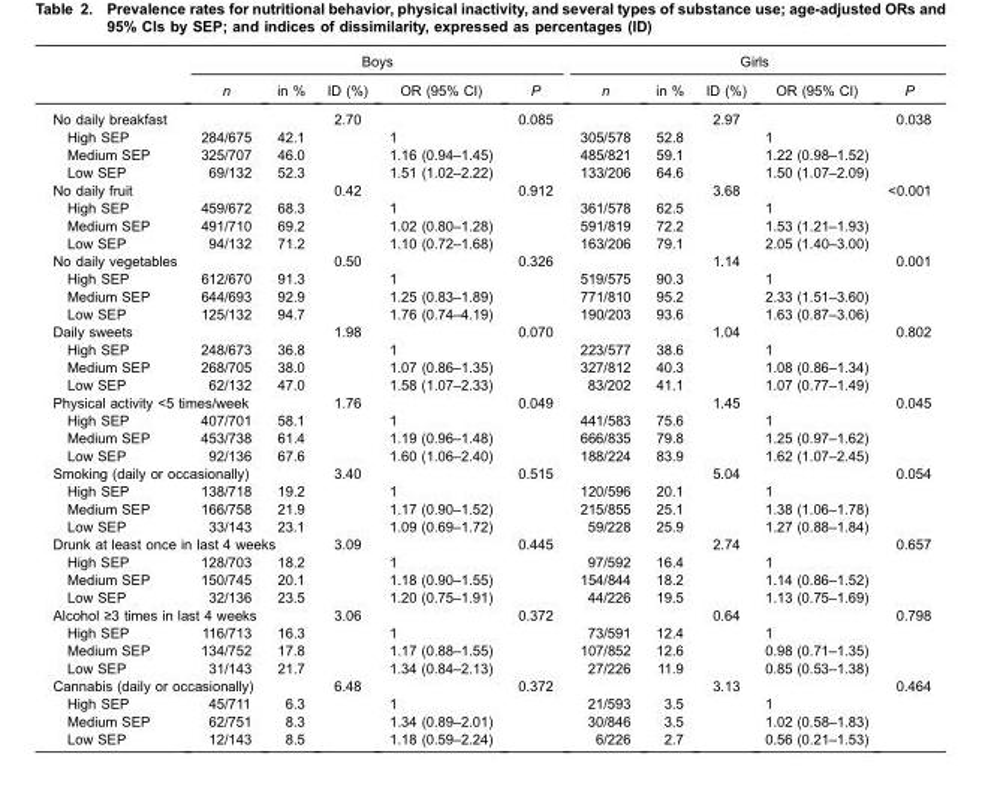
<table><thead><tr><td rowspan="2"></td><td colspan="5">Boys</td><td colspan="5">Girls</td></tr><tr><td>n</td><td>in %</td><td>ID (%)</td><td>OR (95% CI)</td><td>P</td><td>n</td><td>in %</td><td>ID (%)</td><td>OR (95% CI)</td><td>P</td></tr></thead><tbody><tr><td>No daily breakfast</td><td></td><td></td><td>2.70</td><td></td><td>0.085</td><td></td><td></td><td>2.97</td><td></td><td>0.038</td></tr><tr><td>High SEP</td><td>284/675</td><td>42.1</td><td></td><td>1</td><td></td><td>305/578</td><td>52.8</td><td></td><td>1</td><td></td></tr><tr><td>Medium SEP</td><td>325/707</td><td>46.0</td><td></td><td>1.16 (0.94–1.45)</td><td></td><td>485/821</td><td>59.1</td><td></td><td>1.22 (0.98–1.52)</td><td></td></tr><tr><td>Low SEP</td><td>69/132</td><td>52.3</td><td></td><td>1.51 (1.02–2.22)</td><td></td><td>133/206</td><td>64.6</td><td></td><td>1.50 (1.07–2.09)</td><td></td></tr><tr><td>No daily fruit</td><td></td><td></td><td>0.42</td><td></td><td>0.912</td><td></td><td></td><td>3.68</td><td></td><td>&lt;0.001</td></tr><tr><td>High SEP</td><td>459/672</td><td>68.3</td><td></td><td>1</td><td></td><td>361/578</td><td>62.5</td><td></td><td>1</td><td></td></tr><tr><td>Medium SEP</td><td>491/710</td><td>69.2</td><td></td><td>1.02 (0.80–1.28)</td><td></td><td>591/819</td><td>72.2</td><td></td><td>1.53 (1.21–1.93)</td><td></td></tr><tr><td>Low SEP</td><td>94/132</td><td>71.2</td><td></td><td>1.10 (0.72–1.68)</td><td></td><td>163/206</td><td>79.1</td><td></td><td>2.05 (1.40–3.00)</td><td></td></tr><tr><td>No daily vegetables</td><td></td><td></td><td>0.50</td><td></td><td>0.326</td><td></td><td></td><td>1.14</td><td></td><td>0.001</td></tr><tr><td>High SEP</td><td>612/670</td><td>91.3</td><td></td><td>1</td><td></td><td>519/575</td><td>90.3</td><td></td><td>1</td><td></td></tr><tr><td>Medium SEP</td><td>644/693</td><td>92.9</td><td></td><td>1.25 (0.83–1.89)</td><td></td><td>771/810</td><td>95.2</td><td></td><td>2.33 (1.51–3.60)</td><td></td></tr><tr><td>Low SEP</td><td>125/132</td><td>94.7</td><td></td><td>1.76 (0.74–4.19)</td><td></td><td>190/203</td><td>93.6</td><td></td><td>1.63 (0.87–3.06)</td><td></td></tr><tr><td>Daily sweets</td><td></td><td></td><td>1.98</td><td></td><td>0.070</td><td></td><td></td><td>1.04</td><td></td><td>0.802</td></tr><tr><td>High SEP</td><td>248/673</td><td>36.8</td><td></td><td>1</td><td></td><td>223/577</td><td>38.6</td><td></td><td>1</td><td></td></tr><tr><td>Medium SEP</td><td>268/705</td><td>38.0</td><td></td><td>1.07 (0.86–1.35)</td><td></td><td>327/812</td><td>40.3</td><td></td><td>1.08 (0.86–1.34)</td><td></td></tr><tr><td>Low SEP</td><td>62/132</td><td>47.0</td><td></td><td>1.58 (1.07–2.33)</td><td></td><td>83/202</td><td>41.1</td><td></td><td>1.07 (0.77–1.49)</td><td></td></tr><tr><td colspan="3">Physical activity &lt;5 times/week</td><td>1.76</td><td></td><td>0.049</td><td></td><td></td><td>1.45</td><td></td><td>0.045</td></tr><tr><td>High SEP</td><td>407/701</td><td>58.1</td><td></td><td>1</td><td></td><td>441/583</td><td>75.6</td><td></td><td>1</td><td></td></tr><tr><td>Medium SEP</td><td>453/738</td><td>61.4</td><td></td><td>1.19 (0.96–1.48)</td><td></td><td>666/835</td><td>79.8</td><td></td><td>1.25 (0.97–1.62)</td><td></td></tr><tr><td>Low SEP</td><td>92/136</td><td>67.6</td><td></td><td>1.60 (1.06–2.40)</td><td></td><td>188/224</td><td>83.9</td><td></td><td>1.62 (1.07–2.45)</td><td></td></tr><tr><td colspan="3">Smoking (daily or occasionally)</td><td>3.40</td><td></td><td>0.515</td><td></td><td></td><td>5.04</td><td></td><td>0.054</td></tr><tr><td>High SEP</td><td>138/718</td><td>19.2</td><td></td><td>1</td><td></td><td>120/596</td><td>20.1</td><td></td><td>1</td><td></td></tr><tr><td>Medium SEP</td><td>166/758</td><td>21.9</td><td></td><td>1.17 (0.90–1.52)</td><td></td><td>215/855</td><td>25.1</td><td></td><td>1.38 (1.06–1.78)</td><td></td></tr><tr><td>Low SEP</td><td>33/143</td><td>23.1</td><td></td><td>1.09 (0.69–1.72)</td><td></td><td>59/228</td><td>25.9</td><td></td><td>1.27 (0.88–1.84)</td><td></td></tr><tr><td colspan="3">Drunk at least once in last 4 weeks</td><td>3.09</td><td></td><td>0.445</td><td></td><td></td><td>2.74</td><td></td><td>0.657</td></tr><tr><td>High SEP</td><td>128/703</td><td>18.2</td><td></td><td>1</td><td></td><td>97/592</td><td>16.4</td><td></td><td>1</td><td></td></tr><tr><td>Medium SEP</td><td>150/745</td><td>20.1</td><td></td><td>1.18 (0.90–1.55)</td><td></td><td>154/844</td><td>18.2</td><td></td><td>1.14 (0.86–1.52)</td><td></td></tr><tr><td>Low SEP</td><td>32/136</td><td>23.5</td><td></td><td>1.20 (0.75–1.91)</td><td></td><td>44/226</td><td>19.5</td><td></td><td>1.13 (0.75–1.69)</td><td></td></tr><tr><td colspan="3">Alcohol ≥3 times in last 4 weeks</td><td>3.06</td><td></td><td>0.372</td><td></td><td></td><td>0.64</td><td></td><td>0.798</td></tr><tr><td>High SEP</td><td>116/713</td><td>16.3</td><td></td><td>1</td><td></td><td>73/591</td><td>12.4</td><td></td><td>1</td><td></td></tr><tr><td>Medium SEP</td><td>134/752</td><td>17.8</td><td></td><td>1.17 (0.88–1.55)</td><td></td><td>107/852</td><td>12.6</td><td></td><td>0.98 (0.71–1.35)</td><td></td></tr><tr><td>Low SEP</td><td>31/143</td><td>21.7</td><td></td><td>1.34 (0.84–2.13)</td><td></td><td>27/226</td><td>11.9</td><td></td><td>0.85 (0.53–1.38)</td><td></td></tr><tr><td colspan="3">Cannabis (daily or occasionally)</td><td>6.48</td><td></td><td>0.372</td><td></td><td></td><td>3.13</td><td></td><td>0.464</td></tr><tr><td>High SEP</td><td>45/711</td><td>6.3</td><td></td><td>1</td><td></td><td>21/593</td><td>3.5</td><td></td><td>1</td><td></td></tr><tr><td>Medium SEP</td><td>62/751</td><td>8.3</td><td></td><td>1.34 (0.89–2.01)</td><td></td><td>30/846</td><td>3.5</td><td></td><td>1.02 (0.58–1.83)</td><td></td></tr><tr><td>Low SEP</td><td>12/143</td><td>8.5</td><td></td><td>1.18 (0.59–2.24)</td><td></td><td>6/226</td><td>2.7</td><td></td><td>0.56 (0.21–1.53)</td><td></td></tr></tbody></table>